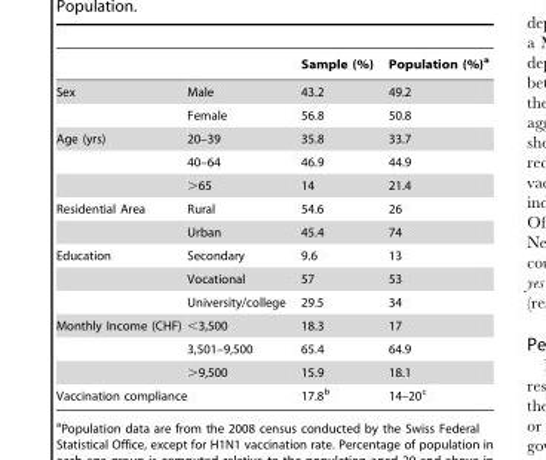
<table><thead><tr><td></td><td></td><td>Sample (%)</td><td>Population (%)<sup>a</sup></td></tr></thead><tbody><tr><td rowspan="2">Sex</td><td>Male</td><td>43.2</td><td>49.2</td></tr><tr><td>Female</td><td>56.8</td><td>50.8</td></tr><tr><td rowspan="3">Age (yrs)</td><td>20–39</td><td>35.8</td><td>33.7</td></tr><tr><td>40–64</td><td>46.9</td><td>44.9</td></tr><tr><td>&gt;65</td><td>14</td><td>21.4</td></tr><tr><td rowspan="2">Residential Area</td><td>Rural</td><td>54.6</td><td>26</td></tr><tr><td>Urban</td><td>45.4</td><td>74</td></tr><tr><td rowspan="3">Education</td><td>Secondary</td><td>9.6</td><td>13</td></tr><tr><td>Vocational</td><td>57</td><td>53</td></tr><tr><td>University/college</td><td>29.5</td><td>34</td></tr><tr><td rowspan="3">Monthly Income (CHF)</td><td>&lt;3,500</td><td>18.3</td><td>17</td></tr><tr><td>3,501–9,500</td><td>65.4</td><td>64.9</td></tr><tr><td>&gt;9,500</td><td>15.9</td><td>18.1</td></tr><tr><td>Vaccination compliance</td><td></td><td>17.8<sup>b</sup></td><td>14–20<sup>c</sup></td></tr></tbody></table>